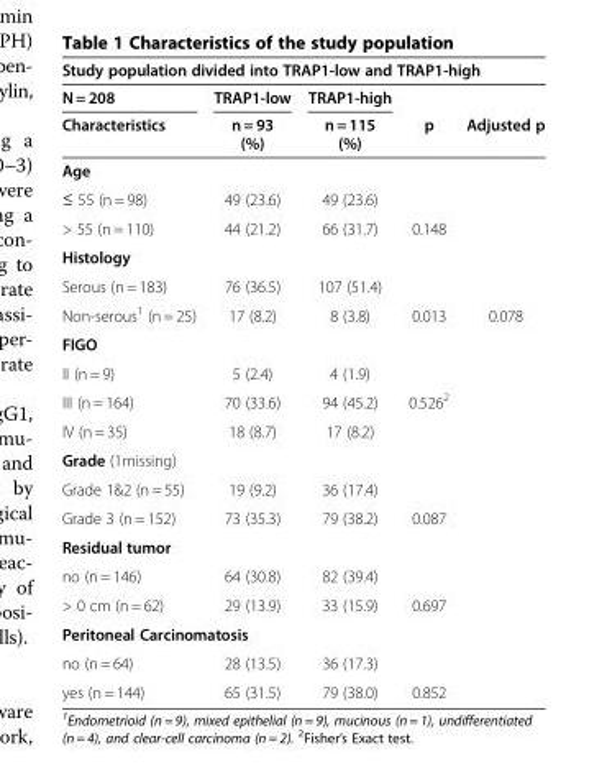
<table><thead><tr><td colspan="5">Study population divided into TRAP1-low and TRAP1-high</td></tr><tr><td rowspan="2">N = 208 Characteristics</td><td rowspan="2">TRAP1-low n = 93 (%)</td><td rowspan="2">TRAP1-high n = 115 (%)</td><td rowspan="2">p</td><td rowspan="2">Adjusted p</td></tr><tr></tr></thead><tbody><tr><td colspan="5">Age</td></tr><tr><td>≤ 55 (n = 98)</td><td>49 (23.6)</td><td>49 (23.6)</td><td></td><td></td></tr><tr><td>&gt; 55 (n = 110)</td><td>44 (21.2)</td><td>66 (31.7)</td><td>0.148</td><td></td></tr><tr><td colspan="5">Histology</td></tr><tr><td>Serous (n = 183)</td><td>76 (36.5)</td><td>107 (51.4)</td><td></td><td></td></tr><tr><td>Non-serous<sup>1</sup> (n = 25)</td><td>17 (8.2)</td><td>8 (3.8)</td><td>0.013</td><td>0.078</td></tr><tr><td colspan="5">FIGO</td></tr><tr><td>II (n = 9)</td><td>5 (2.4)</td><td>4 (1.9)</td><td></td><td></td></tr><tr><td>III (n = 164)</td><td>70 (33.6)</td><td>94 (45.2)</td><td>0.526<sup>2</sup></td><td></td></tr><tr><td>IV (n = 35)</td><td>18 (8.7)</td><td>17 (8.2)</td><td colspan="2"></td></tr><tr><td colspan="5">Grade (1missing)</td></tr><tr><td>Grade 1&amp;2 (n = 55)</td><td>19 (9.2)</td><td>36 (17.4)</td><td></td><td></td></tr><tr><td>Grade 3 (n = 152)</td><td>73 (35.3)</td><td>79 (38.2)</td><td>0.087</td><td></td></tr><tr><td colspan="5">Residual tumor</td></tr><tr><td>no (n = 146)</td><td>64 (30.8)</td><td>82 (39.4)</td><td></td><td></td></tr><tr><td>&gt; 0 cm (n = 62)</td><td>29 (13.9)</td><td>33 (15.9)</td><td>0.697</td><td></td></tr><tr><td colspan="5">Peritoneal Carcinomatosis</td></tr><tr><td>no (n = 64)</td><td>28 (13.5)</td><td>36 (17.3)</td><td></td><td></td></tr><tr><td>yes (n = 144)</td><td>65 (31.5)</td><td>79 (38.0)</td><td>0.852</td><td></td></tr></tbody></table>